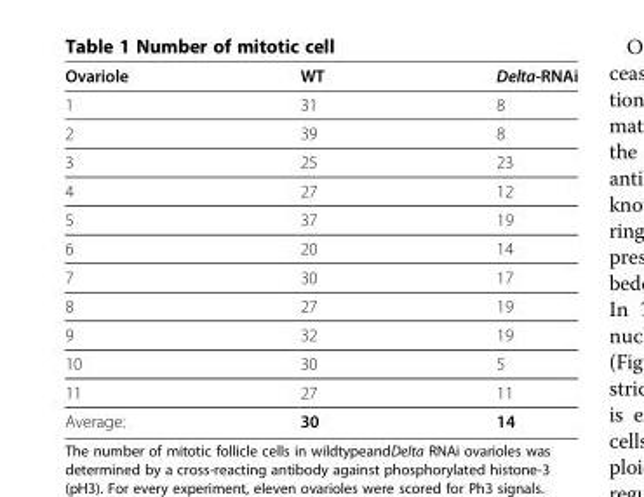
<table><thead><tr><td>Ovariole</td><td>WT</td><td>Delta-RNAi</td></tr></thead><tbody><tr><td>1</td><td>31</td><td>8</td></tr><tr><td>2</td><td>39</td><td>8</td></tr><tr><td>3</td><td>25</td><td>23</td></tr><tr><td>4</td><td>27</td><td>12</td></tr><tr><td>5</td><td>37</td><td>19</td></tr><tr><td>6</td><td>20</td><td>14</td></tr><tr><td>7</td><td>30</td><td>17</td></tr><tr><td>8</td><td>27</td><td>19</td></tr><tr><td>9</td><td>32</td><td>19</td></tr><tr><td>10</td><td>30</td><td>5</td></tr><tr><td>11</td><td>27</td><td>11</td></tr><tr><td>Average:</td><td>30</td><td>14</td></tr></tbody></table>